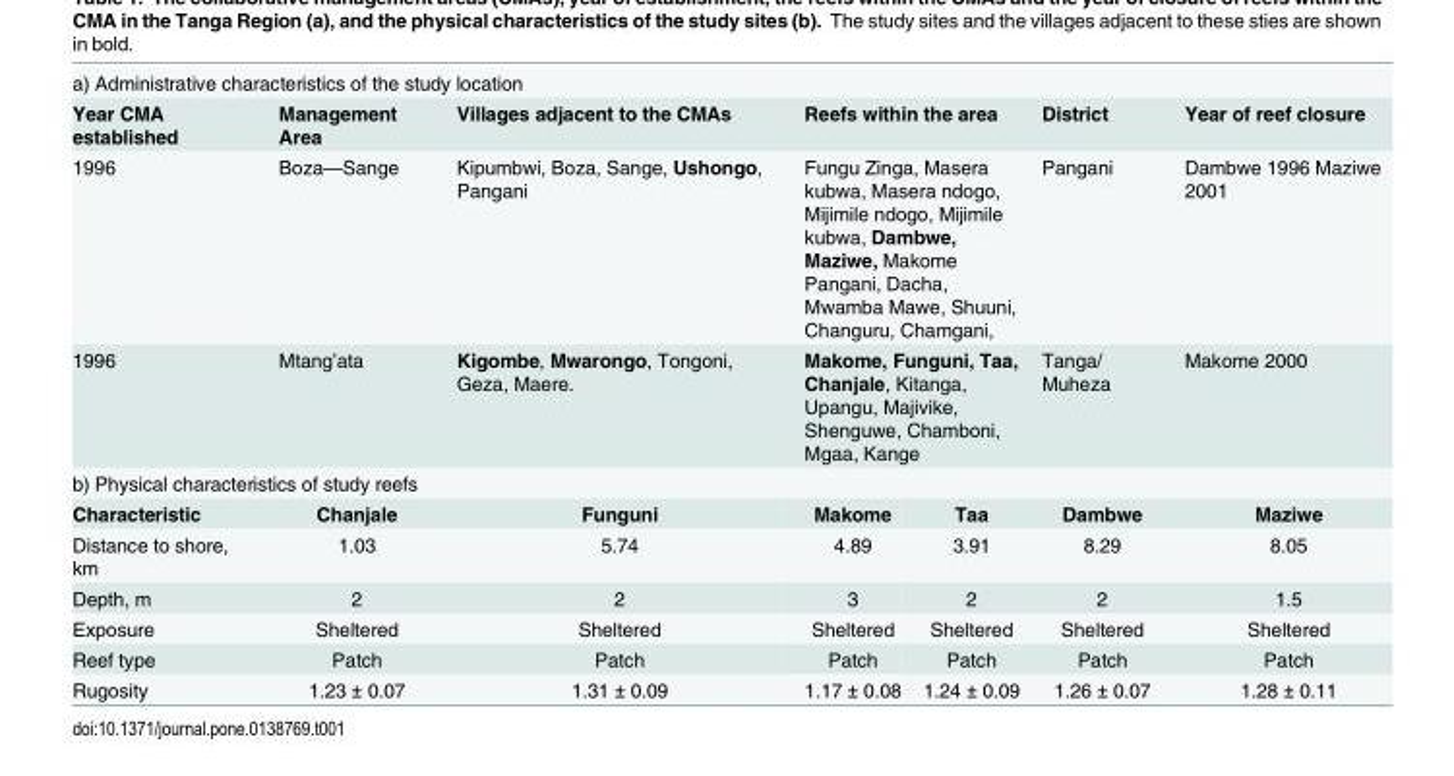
<table><tbody><tr><td colspan="7">a) Administrative characteristics of the study location</td></tr><tr><td>Year CMA established</td><td>Management Area</td><td>Villages adjacent to the CMAs</td><td colspan="2">Reefs within the area</td><td>District</td><td>Year of reef closure</td></tr><tr><td>1996</td><td>Boza—Sange</td><td>Kipumbwi, Boza, Sange, Ushongo, Pangani</td><td colspan="2">Fungu Zinga, Masera kubwa, Masera ndogo, Mijimile ndogo, Mijimile kubwa, Dambwe, Maziwe, Makome Pangani, Dacha, Mwamba Mawe, Shuuni, Changuru, Chamgani,</td><td>Pangani</td><td>Dambwe 1996 Maziwe 2001</td></tr><tr><td>1996</td><td>Mtang’ata</td><td>Kigombe, Mwarongo, Tongoni, Geza, Maere.</td><td colspan="2">Makome, Funguni, Taa, Chanjale, Kitanga, Upangu, Majivike, Shenguwe, Chamboni, Mgaa, Kange</td><td>Tanga/ Muheza</td><td>Makome 2000</td></tr><tr><td colspan="7">b) Physical characteristics of study reefs</td></tr><tr><td>Characteristic</td><td>Chanjale</td><td>Funguni</td><td>Makome</td><td>Taa</td><td>Dambwe</td><td>Maziwe</td></tr><tr><td>Distance to shore, km</td><td>1.03</td><td>5.74</td><td>4.89</td><td>3.91</td><td>8.29</td><td>8.05</td></tr><tr><td>Depth, m</td><td>2</td><td>2</td><td>3</td><td>2</td><td>2</td><td>1.5</td></tr><tr><td>Exposure</td><td>Sheltered</td><td>Sheltered</td><td>Sheltered</td><td>Sheltered</td><td>Sheltered</td><td>Sheltered</td></tr><tr><td>Reef type</td><td>Patch</td><td>Patch</td><td>Patch</td><td>Patch</td><td>Patch</td><td>Patch</td></tr><tr><td>Rugosity</td><td>1.23 ± 0.07</td><td>1.31 ± 0.09</td><td>1.17 ± 0.08</td><td>1.24 ± 0.09</td><td>1.26 ± 0.07</td><td>1.28 ± 0.11</td></tr></tbody></table>